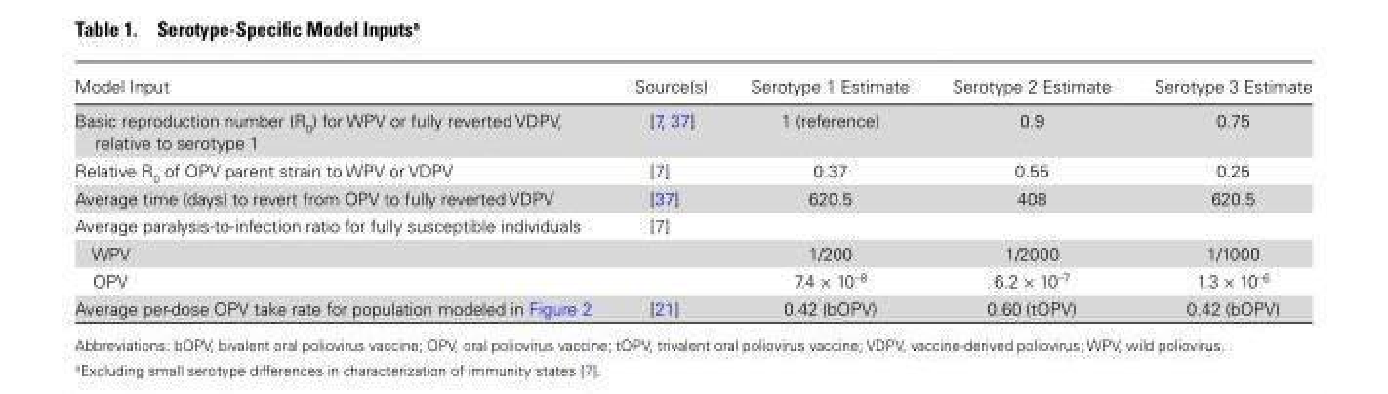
<table><thead><tr><td>Model Input</td><td>Source(s)</td><td>Serotype 1 Estimate</td><td>Serotype 2 Estimate</td><td>Serotype 3 Estimate</td></tr></thead><tbody><tr><td>Basic reproduction number (R<sub>0</sub>) for WPV or fully reverted VDPV, relative to serotype 1</td><td>[7, 37]</td><td>1 (reference)</td><td>0.9</td><td>0.75</td></tr><tr><td>Relative R<sub>0</sub> of OPV parent strain to WPV or VDPV</td><td>[7]</td><td>0.37</td><td>0.55</td><td>0.25</td></tr><tr><td>Average time (days) to revert from OPV to fully reverted VDPV</td><td>[37]</td><td>620.5</td><td>408</td><td>620.5</td></tr><tr><td>Average paralysis-to-infection ratio for fully susceptible individuals</td><td>[7]</td><td></td><td></td><td></td></tr><tr><td>WPV</td><td></td><td>1/200</td><td>1/2000</td><td>1/1000</td></tr><tr><td>OPV</td><td></td><td>7.4 × 10<sup>–8</sup></td><td>6.2 × 10<sup>–7</sup></td><td>1.3 × 10<sup>–6</sup></td></tr><tr><td>Average per-dose OPV take rate for population modeled in Figure 2</td><td>[21]</td><td>0.42 (bOPV)</td><td>0.60 (tOPV)</td><td>0.42 (bOPV)</td></tr></tbody></table>